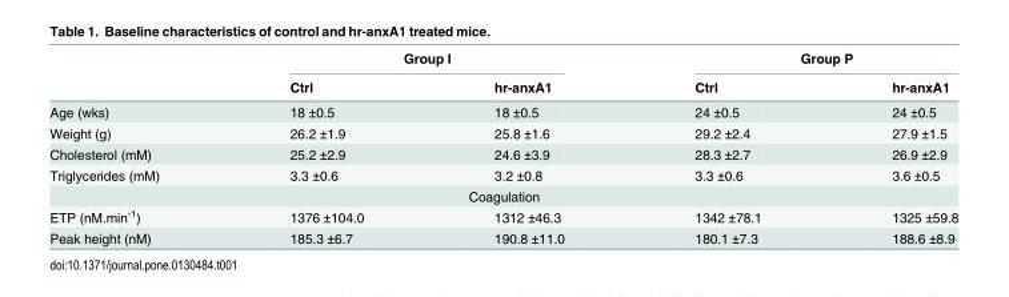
<table><thead><tr><td rowspan="2"></td><td colspan="2">Group I</td><td colspan="2">Group P</td></tr><tr><td>Ctrl</td><td>hr-anxA1</td><td>Ctrl</td><td>hr-anxA1</td></tr></thead><tbody><tr><td>Age (wks)</td><td>18 ±0.5</td><td>18 ±0.5</td><td>24 ±0.5</td><td>24 ±0.5</td></tr><tr><td>Weight (g)</td><td>26.2 ±1.9</td><td>25.8 ±1.6</td><td>29.2 ±2.4</td><td>27.9 ±1.5</td></tr><tr><td>Cholesterol (mM)</td><td>25.2 ±2.9</td><td>24.6 ±3.9</td><td>28.3 ±2.7</td><td>26.9 ±2.9</td></tr><tr><td>Triglycerides (mM)</td><td>3.3 ±0.6</td><td>3.2 ±0.8</td><td>3.3 ±0.6</td><td>3.6 ±0.5</td></tr><tr><td colspan="5">Coagulation</td></tr><tr><td>ETP (nM.min<sup>-1</sup>)</td><td>1376 ±104.0</td><td>1312 ±46.3</td><td>1342 ±78.1</td><td>1325 ±59.8</td></tr><tr><td>Peak height (nM)</td><td>185.3 ±6.7</td><td>190.8 ±11.0</td><td>180.1 ±7.3</td><td>188.6 ±8.9</td></tr></tbody></table>